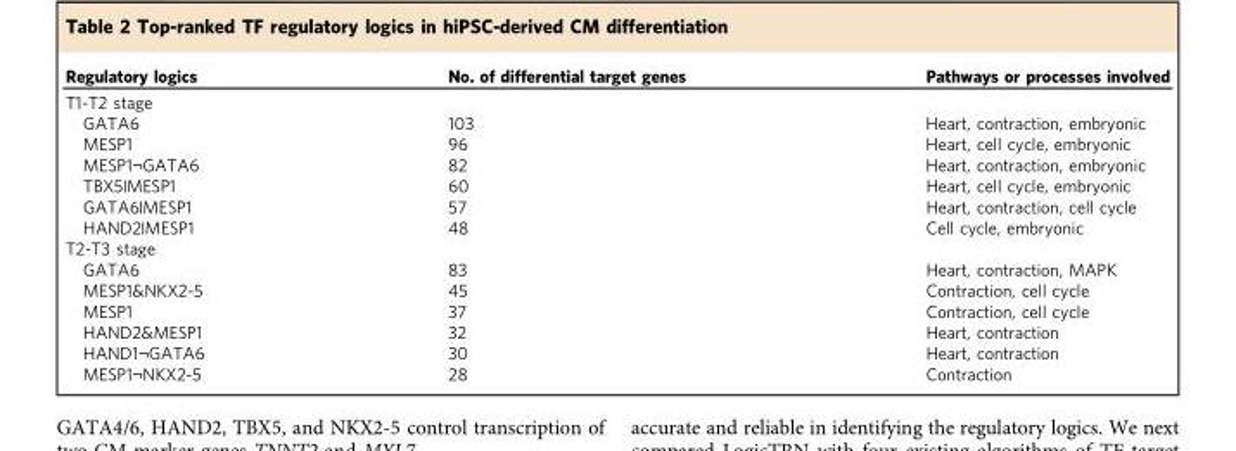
<table><thead><tr><td>Regulatory logics</td><td>No. of differential target genes</td><td>Pathways or processes involved</td></tr></thead><tbody><tr><td colspan="3">T1-T2 stage</td></tr><tr><td>GATA6</td><td>103</td><td>Heart, contraction, embryonic</td></tr><tr><td>MESP1</td><td>96</td><td>Heart, cell cycle, embryonic</td></tr><tr><td>MESP1¬GATA6</td><td>82</td><td>Heart, contraction, embryonic</td></tr><tr><td>TBX5|MESP1</td><td>60</td><td>Heart, cell cycle, embryonic</td></tr><tr><td>GATA6|MESP1</td><td>57</td><td>Heart, contraction, cell cycle</td></tr><tr><td>HAND2|MESP1</td><td>48</td><td>Cell cycle, embryonic</td></tr><tr><td colspan="3">T2-T3 stage</td></tr><tr><td>GATA6</td><td>83</td><td>Heart, contraction, MAPK</td></tr><tr><td>MESP1&amp;NKX2-5</td><td>45</td><td>Contraction, cell cycle</td></tr><tr><td>MESP1</td><td>37</td><td>Contraction, cell cycle</td></tr><tr><td>HAND2&amp;MESP1</td><td>32</td><td>Heart, contraction</td></tr><tr><td>HAND1¬GATA6</td><td>30</td><td>Heart, contraction</td></tr><tr><td>MESP1¬NKX2-5</td><td>28</td><td>Contraction</td></tr></tbody></table>